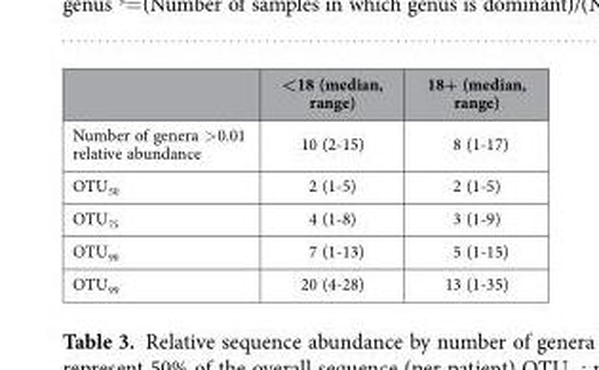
<table><thead><tr><td></td><td>&lt;18 (median, range)</td><td>18+ (median, range)</td></tr></thead><tbody><tr><td>Number of genera &gt; 0.01 relative abundance</td><td>10 (2-15)</td><td>8 (1-17)</td></tr><tr><td>OTU<sub>50</sub></td><td>2 (1-5)</td><td>2 (1-5)</td></tr><tr><td>OTU<sub>75</sub></td><td>4 (1-8)</td><td>3 (1-9)</td></tr><tr><td>OTU<sub>90</sub></td><td>7 (1-13)</td><td>5 (1-15)</td></tr><tr><td>OTU<sub>99</sub></td><td>20 (4-28)</td><td>13 (1-35)</td></tr></tbody></table>